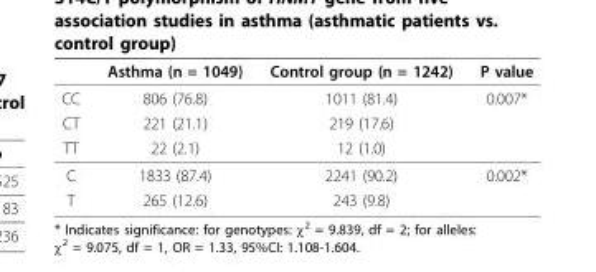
<table><thead><tr><td></td><td>Asthma (n = 1049)</td><td>Control group (n = 1242)</td><td>P value</td></tr></thead><tbody><tr><td>CC</td><td>806 (76.8)</td><td>1011 (81.4)</td><td>0.007*</td></tr><tr><td>CT</td><td>221 (21.1)</td><td>219 (17.6)</td><td></td></tr><tr><td>TT</td><td>22 (2.1)</td><td>12 (1.0)</td><td></td></tr><tr><td>C</td><td>1833 (87.4)</td><td>2241 (90.2)</td><td>0.002*</td></tr><tr><td>T</td><td>265 (12.6)</td><td>243 (9.8)</td><td></td></tr></tbody></table>